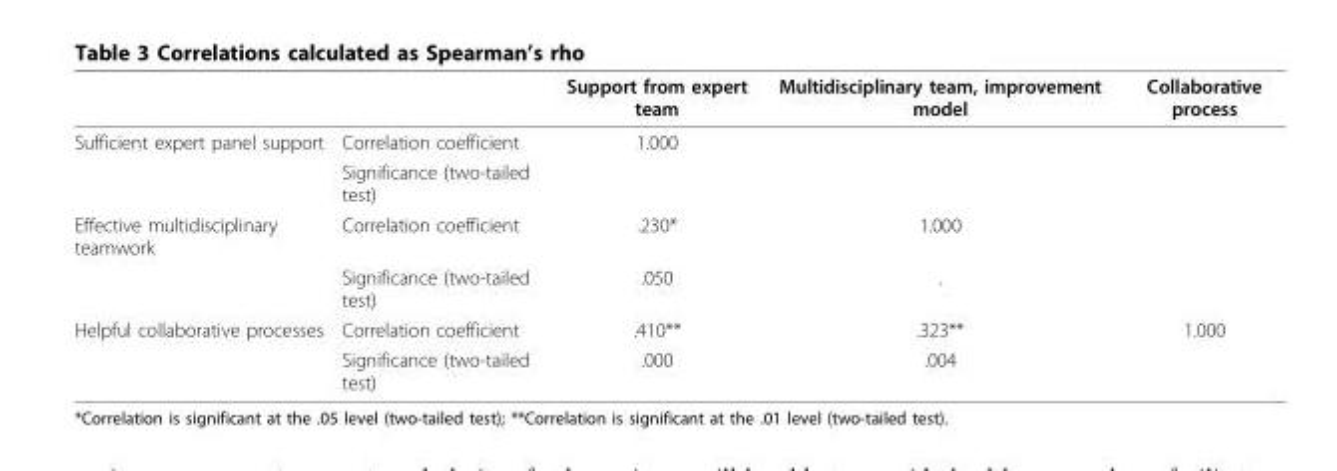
<table><thead><tr><td></td><td></td><td>Support from expert team</td><td>Multidisciplinary team, improvement model</td><td>Collaborative process</td></tr></thead><tbody><tr><td rowspan="2">Sufficient expert panel support</td><td>Correlation coefficient</td><td>1.000</td><td></td><td></td></tr><tr><td>Significance (two-tailed test)</td><td></td><td></td><td></td></tr><tr><td rowspan="2">Effective multidisciplinary teamwork</td><td>Correlation coefficient</td><td>.230*</td><td>1.000</td><td></td></tr><tr><td>Significance (two-tailed test)</td><td>.050</td><td>.</td><td></td></tr><tr><td rowspan="2">Helpful collaborative processes</td><td>Correlation coefficient</td><td>.410**</td><td>.323**</td><td>1.000</td></tr><tr><td>Significance (two-tailed test)</td><td>.000</td><td>.004</td><td></td></tr></tbody></table>